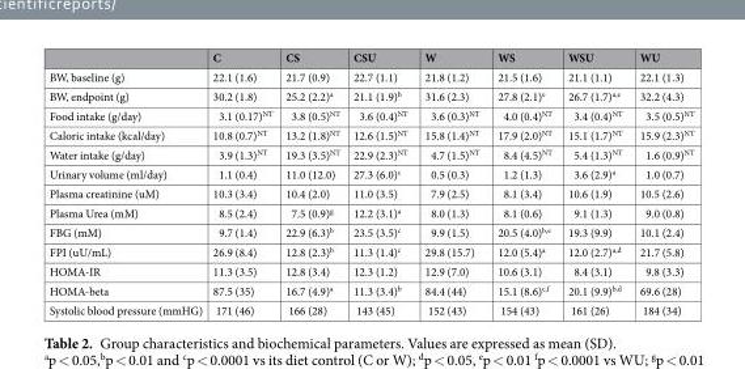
<table><thead><tr><td></td><td>C</td><td>CS</td><td>CSU</td><td>W</td><td>WS</td><td>WSU</td><td>WU</td></tr></thead><tbody><tr><td>BW, baseline (g)</td><td>22.1 (1.6)</td><td>21.7 (0.9)</td><td>22.7 (1.1)</td><td>21.8 (1.2)</td><td>21.5 (1.6)</td><td>21.1 (1.1)</td><td>22.1 (1.3)</td></tr><tr><td>BW, endpoint (g)</td><td>30.2 (1.8)</td><td>25.2 (2.2)<sup>a</sup></td><td>21.1 (1.9)<sup>b</sup></td><td>31.6 (2.3)</td><td>27.8 (2.1)<sup>e</sup></td><td>26.7 (1.7)<sup>a,e</sup></td><td>32.2 (4.3)</td></tr><tr><td>Food intake (g/day)</td><td>3.1 (0.17)<sup>NT</sup></td><td>3.8 (0.5)<sup>NT</sup></td><td>3.6 (0.4)<sup>NT</sup></td><td>3.6 (0.3)<sup>NT</sup></td><td>4.0 (0.4)<sup>NT</sup></td><td>3.4 (0.4)<sup>NT</sup></td><td>3.5 (0.5)<sup>NT</sup></td></tr><tr><td>Caloric intake (kcal/day)</td><td>10.8 (0.7)<sup>NT</sup></td><td>13.2 (1.8)<sup>NT</sup></td><td>12.6 (1.5)<sup>NT</sup></td><td>15.8 (1.4)<sup>NT</sup></td><td>17.9 (2.0)<sup>NT</sup></td><td>15.1 (1.7)<sup>NT</sup></td><td>15.9 (2.3)<sup>NT</sup></td></tr><tr><td>Water intake (g/day)</td><td>3.9 (1.3)<sup>NT</sup></td><td>19.3 (3.5)<sup>NT</sup></td><td>22.9 (2.3)<sup>NT</sup></td><td>4.7 (1.5)<sup>NT</sup></td><td>8.4 (4.5)<sup>NT</sup></td><td>5.4 (1.3)<sup>NT</sup></td><td>1.6 (0.9)<sup>NT</sup></td></tr><tr><td>Urinary volume (ml/day)</td><td>1.1 (0.4)</td><td>11.0 (12.0)</td><td>27.3 (6.0)<sup>c</sup></td><td>0.5 (0.3)</td><td>1.2 (1.3)</td><td>3.6 (2.9)<sup>a</sup></td><td>1.0 (0.7)</td></tr><tr><td>Plasma creatinine (uM)</td><td>10.3 (3.4)</td><td>10.4 (2.0)</td><td>11.0 (3.5)</td><td>7.9 (2.5)</td><td>8.1 (3.4)</td><td>10.6 (1.9)</td><td>10.5 (2.6)</td></tr><tr><td>Plasma Urea (mM)</td><td>8.5 (2.4)</td><td>7.5 (0.9)<sup>g</sup></td><td>12.2 (3.1)<sup>a</sup></td><td>8.0 (1.3)</td><td>8.1 (0.6)</td><td>9.1 (1.3)</td><td>9.0 (0.8)</td></tr><tr><td>FBG (mM)</td><td>9.7 (1.4)</td><td>22.9 (6.3)<sup>b</sup></td><td>23.5 (3.5)<sup>c</sup></td><td>9.9 (1.5)</td><td>20.5 (4.0)<sup>b,e</sup></td><td>19.3 (9.9)</td><td>10.1 (2.4)</td></tr><tr><td>FPI (uU/mL)</td><td>26.9 (8.4)</td><td>12.8 (2.3)<sup>b</sup></td><td>11.3 (1.4)<sup>c</sup></td><td>29.8 (15.7)</td><td>12.0 (5.4)<sup>a</sup></td><td>12.0 (2.7)<sup>a,d</sup></td><td>21.7 (5.8)</td></tr><tr><td>HOMA-IR</td><td>11.3 (3.5)</td><td>12.8 (3.4)</td><td>12.3 (1.2)</td><td>12.9 (7.0)</td><td>10.6 (3.1)</td><td>8.4 (3.1)</td><td>9.8 (3.3)</td></tr><tr><td>HOMA-beta</td><td>87.5 (35)</td><td>16.7 (4.9)<sup>a</sup></td><td>11.3 (3.4)<sup>b</sup></td><td>84.4 (44)</td><td>15.1 (8.6)<sup>c,f</sup></td><td>20.1 (9.9)<sup>b,d</sup></td><td>69.6 (28)</td></tr><tr><td>Systolic blood pressure (mmHG)</td><td>171 (46)</td><td>166 (28)</td><td>143 (45)</td><td>152 (43)</td><td>154 (43)</td><td>161 (26)</td><td>184 (34)</td></tr></tbody></table>